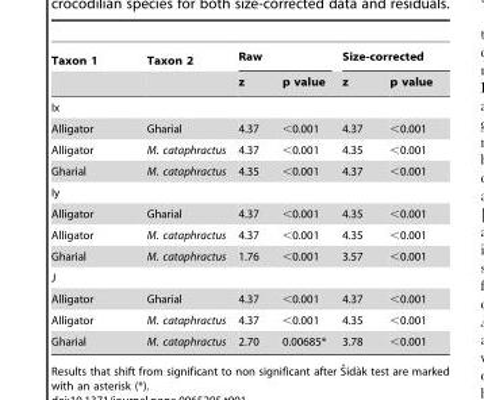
<table><thead><tr><td rowspan="2">Taxon 1</td><td rowspan="2">Taxon 2</td><td colspan="2">Raw</td><td colspan="2">Size-corrected</td></tr><tr><td>z</td><td>p value</td><td>z</td><td>p value</td></tr></thead><tbody><tr><td colspan="6">Ix</td></tr><tr><td>Alligator</td><td>Gharial</td><td>4.37</td><td>&lt;0.001</td><td>4.37</td><td>&lt;0.001</td></tr><tr><td>Alligator</td><td>M. cataphractus</td><td>4.37</td><td>&lt;0.001</td><td>4.35</td><td>&lt;0.001</td></tr><tr><td>Gharial</td><td>M. cataphractus</td><td>4.35</td><td>&lt;0.001</td><td>4.37</td><td>&lt;0.001</td></tr><tr><td colspan="6">Iy</td></tr><tr><td>Alligator</td><td>Gharial</td><td>4.37</td><td>&lt;0.001</td><td>4.35</td><td>&lt;0.001</td></tr><tr><td>Alligator</td><td>M. cataphractus</td><td>4.37</td><td>&lt;0.001</td><td>4.35</td><td>&lt;0.001</td></tr><tr><td>Gharial</td><td>M. cataphractus</td><td>1.76</td><td>&lt;0.001</td><td>3.57</td><td>&lt;0.001</td></tr><tr><td colspan="6">J</td></tr><tr><td>Alligator</td><td>Gharial</td><td>4.37</td><td>&lt;0.001</td><td>4.37</td><td>&lt;0.001</td></tr><tr><td>Alligator</td><td>M. cataphractus</td><td>4.37</td><td>&lt;0.001</td><td>4.35</td><td>&lt;0.001</td></tr><tr><td>Gharial</td><td>M. cataphractus</td><td>2.70</td><td>0.00685*</td><td>3.78</td><td>&lt;0.001</td></tr></tbody></table>